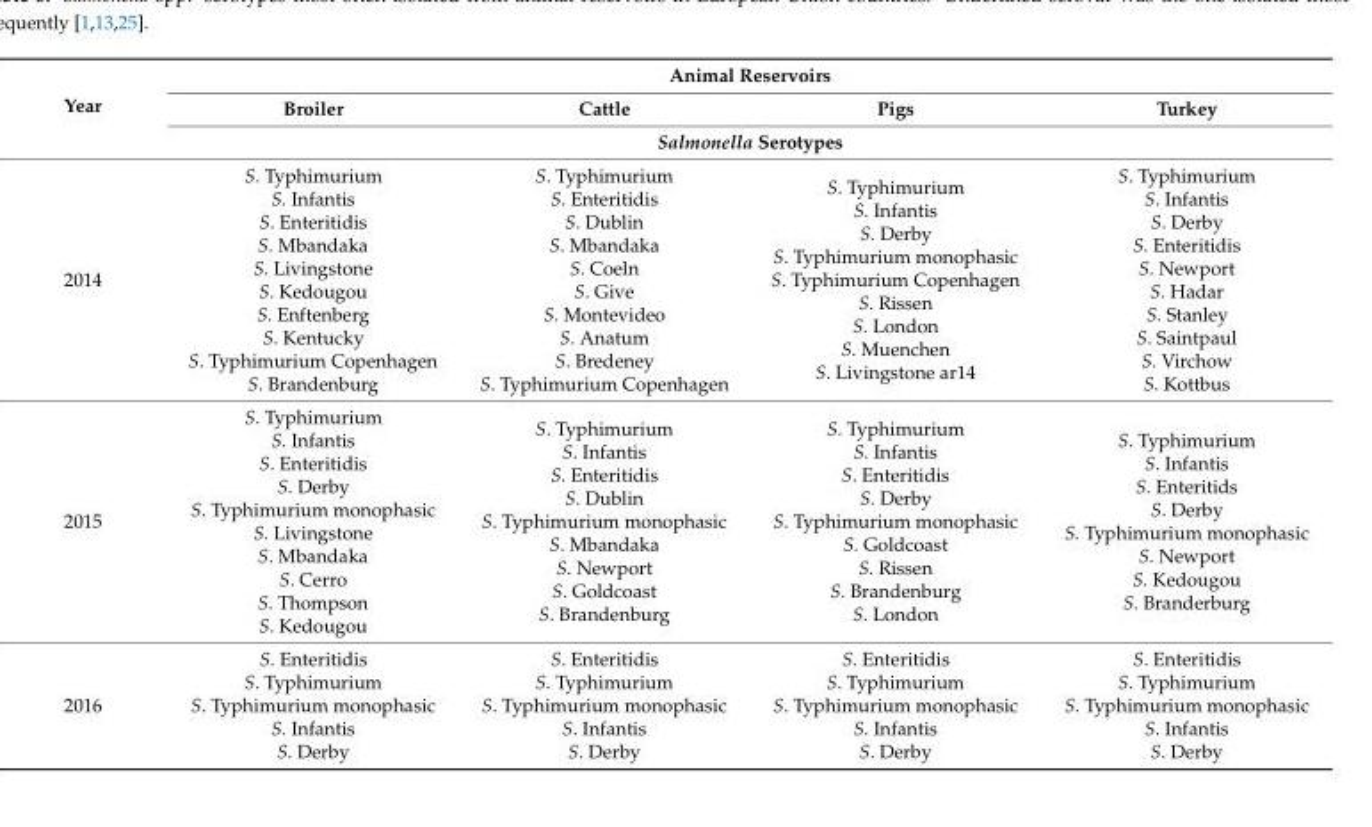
<table><thead><tr><td rowspan="3">Year</td><td colspan="4">Animal Reservoirs</td></tr><tr><td>Broiler</td><td>Cattle</td><td>Pigs</td><td>Turkey</td></tr><tr><td colspan="4">Salmonella Serotypes</td></tr></thead><tbody><tr><td>2014</td><td>S. Typhimurium S. Infantis S. Enteritidis S. Mbandaka S. Livingstone S. Kedougou S. Enftenberg S. Kentucky S. Typhimurium Copenhagen S. Brandenburg</td><td>S. Typhimurium S. Enteritidis S. Dublin S. Mbandaka S. Coeln S. Give S. Montevideo S. Anatum S. Bredeney S. Typhimurium Copenhagen</td><td>S. Typhimurium S. Infantis S. Derby S. Typhimurium monophasic S. Typhimurium Copenhagen S. Rissen S. London S. Muenchen S. Livingstone ar14</td><td>S. Typhimurium S. Infantis S. Derby S. Enteritidis S. Newport S. Hadar S. Stanley S. Saintpaul S. Virchow S. Kottbus</td></tr><tr><td>2015</td><td>S. Typhimurium S. Infantis S. Enteritidis S. Derby S. Typhimurium monophasic S. Livingstone S. Mbandaka S. Cerro S. Thompson S. Kedougou</td><td>S. Typhimurium S. Infantis S. Enteritidis S. Dublin S. Typhimurium monophasic S. Mbandaka S. Newport S. Goldcoast S. Brandenburg</td><td>S. Typhimurium S. Infantis S. Enteritidis S. Derby S. Typhimurium monophasic S. Goldcoast S. Rissen S. Brandenburg S. London</td><td>S. Typhimurium S. Infantis S. Enteritids S. Derby S. Typhimurium monophasic S. Newport S. Kedougou S. Branderburg</td></tr><tr><td>2016</td><td>S. Enteritidis S. Typhimurium S. Typhimurium monophasic S. Infantis S. Derby</td><td>S. Enteritidis S. Typhimurium S. Typhimurium monophasic S. Infantis S. Derby</td><td>S. Enteritidis S. Typhimurium S. Typhimurium monophasic S. Infantis S. Derby</td><td>S. Enteritidis S. Typhimurium S. Typhimurium monophasic S. Infantis S. Derby</td></tr></tbody></table>